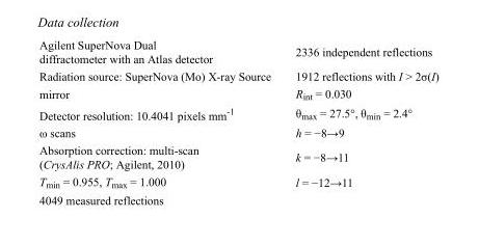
<table><tbody><tr><td>Agilent SuperNova Dual diffractometer with an Atlas detector</td><td>2336 independent reflections</td></tr><tr><td>Radiation source: SuperNova (Mo) X-ray Source</td><td>1912 reflections with I &gt; 2σ(I)</td></tr><tr><td>mirror</td><td>R<sub>int</sub> = 0.030</td></tr><tr><td>Detector resolution: 10.4041 pixels mm<sup>-1</sup></td><td>θ<sub>max</sub> = 27.5°, θ<sub>min</sub> = 2.4°</td></tr><tr><td>ω scans</td><td>h = −8→9</td></tr><tr><td>Absorption correction: multi-scan (CrysAlis PRO; Agilent, 2010)</td><td>k = −8→11</td></tr><tr><td>T<sub>min</sub> = 0.955, T<sub>max</sub> = 1.000</td><td>l = −12→11</td></tr><tr><td>4049 measured reflections</td><td></td></tr></tbody></table>